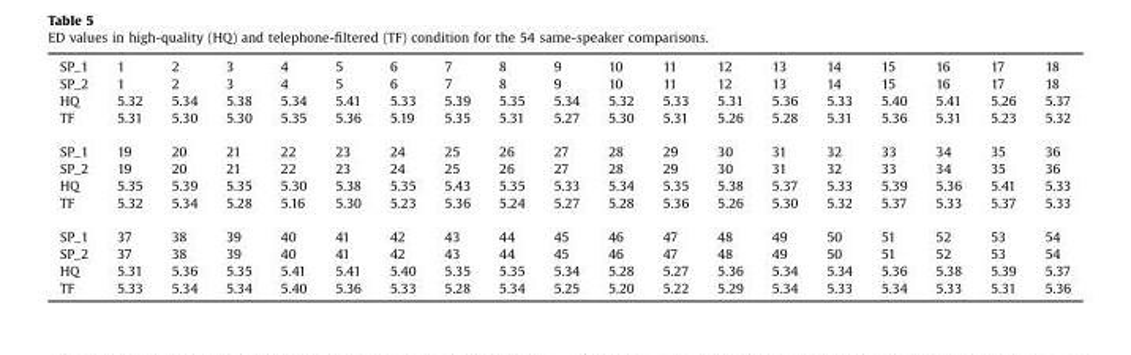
<table><tbody><tr><td>SP_1</td><td>1</td><td>2</td><td>3</td><td>4</td><td>5</td><td>6</td><td>7</td><td>8</td><td>9</td><td>10</td><td>11</td><td>12</td><td>13</td><td>14</td><td>15</td><td>16</td><td>17</td><td>18</td></tr><tr><td>SP_2</td><td>1</td><td>2</td><td>3</td><td>4</td><td>5</td><td>6</td><td>7</td><td>8</td><td>9</td><td>10</td><td>11</td><td>12</td><td>13</td><td>14</td><td>15</td><td>16</td><td>17</td><td>18</td></tr><tr><td>HQ</td><td>5.32</td><td>5.34</td><td>5.38</td><td>5.34</td><td>5.41</td><td>5.33</td><td>5.39</td><td>5.35</td><td>5.34</td><td>5.32</td><td>5.33</td><td>5.31</td><td>5.36</td><td>5.33</td><td>5.40</td><td>5.41</td><td>5.26</td><td>5.37</td></tr><tr><td>TF</td><td>5.31</td><td>5.30</td><td>5.30</td><td>5.35</td><td>5.36</td><td>5.19</td><td>5.35</td><td>5.31</td><td>5.27</td><td>5.30</td><td>5.31</td><td>5.26</td><td>5.28</td><td>5.31</td><td>5.36</td><td>5.31</td><td>5.23</td><td>5.32</td></tr><tr><td>SP_1</td><td>19</td><td>20</td><td>21</td><td>22</td><td>23</td><td>24</td><td>25</td><td>26</td><td>27</td><td>28</td><td>29</td><td>30</td><td>31</td><td>32</td><td>33</td><td>34</td><td>35</td><td>36</td></tr><tr><td>SP_2</td><td>19</td><td>20</td><td>21</td><td>22</td><td>23</td><td>24</td><td>25</td><td>26</td><td>27</td><td>28</td><td>29</td><td>30</td><td>31</td><td>32</td><td>33</td><td>34</td><td>35</td><td>36</td></tr><tr><td>HQ</td><td>5.35</td><td>5.39</td><td>5.35</td><td>5.30</td><td>5.38</td><td>5.35</td><td>5.43</td><td>5.35</td><td>5.33</td><td>5.34</td><td>5.35</td><td>5.38</td><td>5.37</td><td>5.33</td><td>5.39</td><td>5.36</td><td>5.41</td><td>5.33</td></tr><tr><td>TF</td><td>5.32</td><td>5.34</td><td>5.28</td><td>5.16</td><td>5.30</td><td>5.23</td><td>5.36</td><td>5.24</td><td>5.27</td><td>5.28</td><td>5.36</td><td>5.26</td><td>5.30</td><td>5.32</td><td>5.37</td><td>5.33</td><td>5.37</td><td>5.33</td></tr><tr><td>SP_1</td><td>37</td><td>38</td><td>39</td><td>40</td><td>41</td><td>42</td><td>43</td><td>44</td><td>45</td><td>46</td><td>47</td><td>48</td><td>49</td><td>50</td><td>51</td><td>52</td><td>53</td><td>54</td></tr><tr><td>SP_2</td><td>37</td><td>38</td><td>39</td><td>40</td><td>41</td><td>42</td><td>43</td><td>44</td><td>45</td><td>46</td><td>47</td><td>48</td><td>49</td><td>50</td><td>51</td><td>52</td><td>53</td><td>54</td></tr><tr><td>HQ</td><td>5.31</td><td>5.36</td><td>5.35</td><td>5.41</td><td>5.41</td><td>5.40</td><td>5.35</td><td>5.35</td><td>5.34</td><td>5.28</td><td>5.27</td><td>5.36</td><td>5.34</td><td>5.34</td><td>5.36</td><td>5.38</td><td>5.39</td><td>5.37</td></tr><tr><td>TF</td><td>5.33</td><td>5.34</td><td>5.34</td><td>5.40</td><td>5.36</td><td>5.33</td><td>5.28</td><td>5.34</td><td>5.25</td><td>5.20</td><td>5.22</td><td>5.29</td><td>5.34</td><td>5.33</td><td>5.34</td><td>5.33</td><td>5.31</td><td>5.36</td></tr></tbody></table>